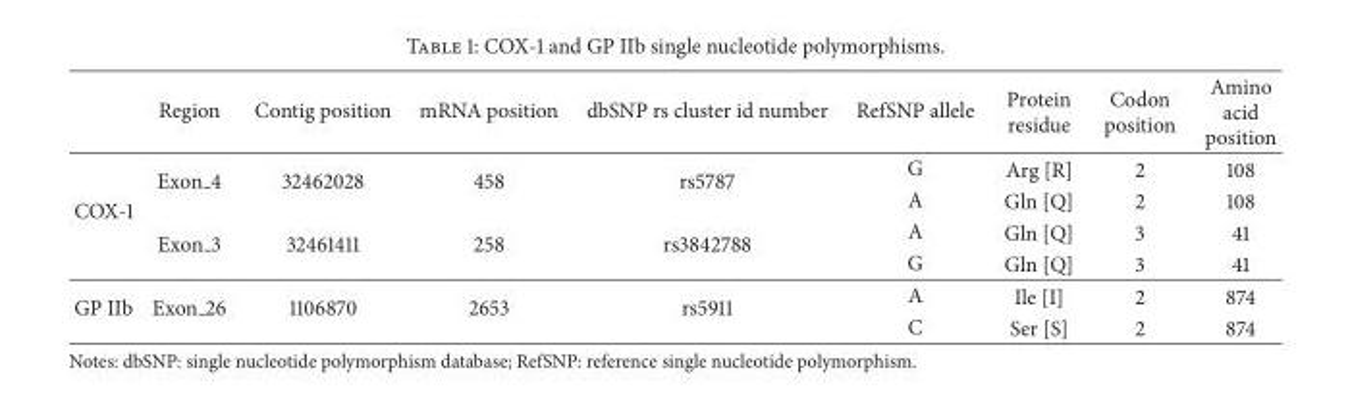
<table><thead><tr><td></td><td>Region</td><td>Contig position</td><td>mRNA position</td><td>dbSNP rs cluster id number</td><td>RefSNP allele</td><td>Protein residue</td><td>Codon position</td><td>Amino acid position</td></tr></thead><tbody><tr><td rowspan="4">COX-1</td><td rowspan="2">Exon 4</td><td rowspan="2">32462028</td><td rowspan="2">458</td><td rowspan="2">rs5787</td><td>G</td><td>Arg [R]</td><td>2</td><td>108</td></tr><tr><td>A</td><td>Gln [Q]</td><td>2</td><td>108</td></tr><tr><td rowspan="2">Exon 3</td><td rowspan="2">32461411</td><td rowspan="2">258</td><td rowspan="2">rs3842788</td><td>A</td><td>Gln [Q]</td><td>3</td><td>41</td></tr><tr><td>G</td><td>Gln [Q]</td><td>3</td><td>41</td></tr><tr><td rowspan="2">GP IIb</td><td rowspan="2">Exon 26</td><td rowspan="2">1106870</td><td rowspan="2">2653</td><td rowspan="2">rs5911</td><td>A</td><td>Ile [I]</td><td>2</td><td>874</td></tr><tr><td>C</td><td>Ser [S]</td><td>2</td><td>874</td></tr></tbody></table>